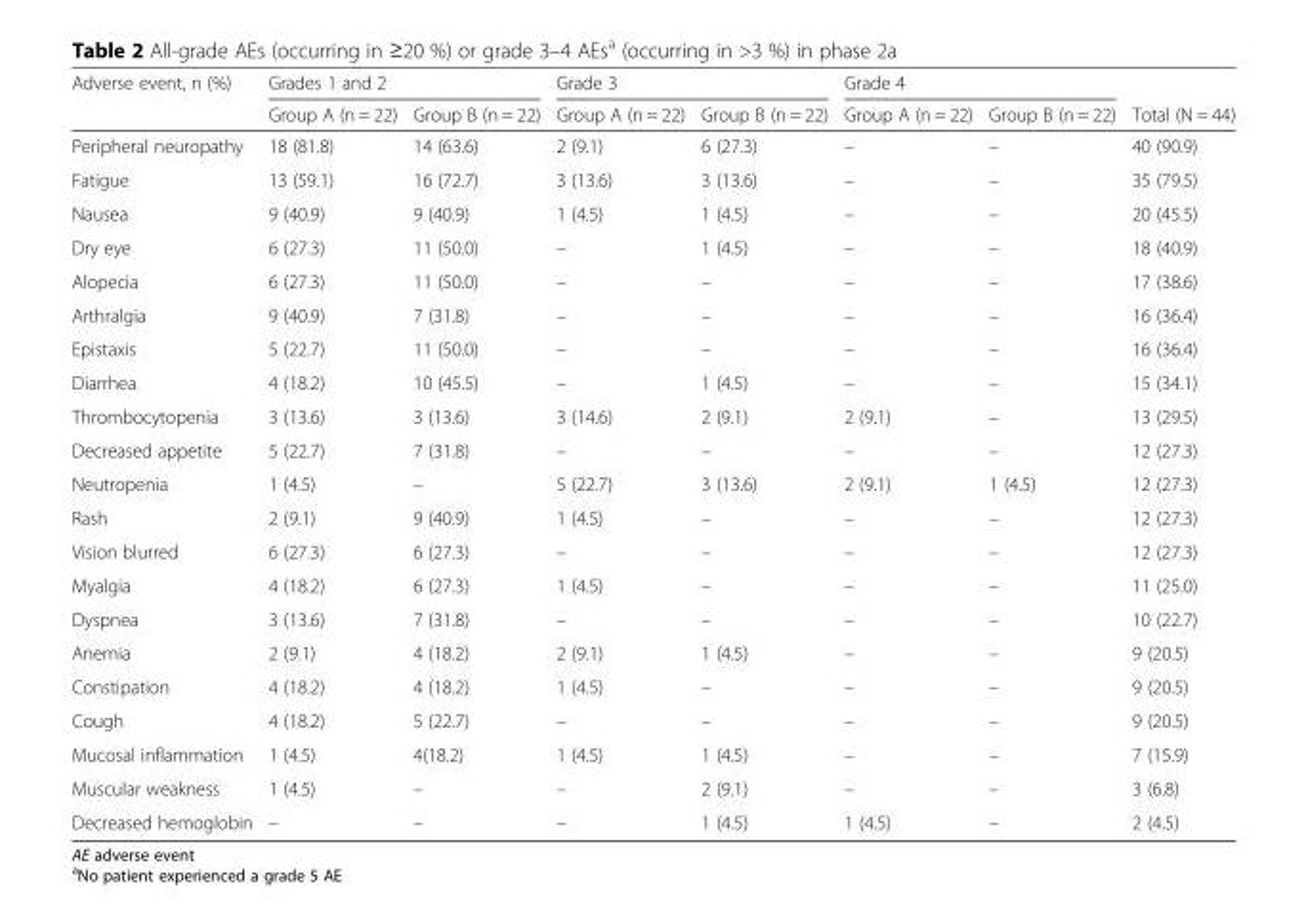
<table><thead><tr><td rowspan="2">Adverse event, n (%)</td><td colspan="2">Grades 1 and 2</td><td colspan="2">Grade 3</td><td colspan="2">Grade 4</td><td rowspan="2">Total (N = 44)</td></tr><tr><td>Group A (n = 22)</td><td>Group B (n = 22)</td><td>Group A (n = 22)</td><td>Group B (n = 22)</td><td>Group A (n = 22)</td><td>Group B (n = 22)</td></tr></thead><tbody><tr><td>Peripheral neuropathy</td><td>18 (81.8)</td><td>14 (63.6)</td><td>2 (9.1)</td><td>6 (27.3)</td><td>–</td><td>–</td><td>40 (90.9)</td></tr><tr><td>Fatigue</td><td>13 (59.1)</td><td>16 (72.7)</td><td>3 (13.6)</td><td>3 (13.6)</td><td>–</td><td>–</td><td>35 (79.5)</td></tr><tr><td>Nausea</td><td>9 (40.9)</td><td>9 (40.9)</td><td>1 (4.5)</td><td>1 (4.5)</td><td>–</td><td>–</td><td>20 (45.5)</td></tr><tr><td>Dry eye</td><td>6 (27.3)</td><td>11 (50.0)</td><td>–</td><td>1 (4.5)</td><td>–</td><td>–</td><td>18 (40.9)</td></tr><tr><td>Alopecia</td><td>6 (27.3)</td><td>11 (50.0)</td><td>–</td><td>–</td><td>–</td><td>–</td><td>17 (38.6)</td></tr><tr><td>Arthralgia</td><td>9 (40.9)</td><td>7 (31.8)</td><td>–</td><td>–</td><td>–</td><td>–</td><td>16 (36.4)</td></tr><tr><td>Epistaxis</td><td>5 (22.7)</td><td>11 (50.0)</td><td>–</td><td>–</td><td>–</td><td>–</td><td>16 (36.4)</td></tr><tr><td>Diarrhea</td><td>4 (18.2)</td><td>10 (45.5)</td><td>–</td><td>1 (4.5)</td><td>–</td><td>–</td><td>15 (34.1)</td></tr><tr><td>Thrombocytopenia</td><td>3 (13.6)</td><td>3 (13.6)</td><td>3 (14.6)</td><td>2 (9.1)</td><td>2 (9.1)</td><td>–</td><td>13 (29.5)</td></tr><tr><td>Decreased appetite</td><td>5 (22.7)</td><td>7 (31.8)</td><td>–</td><td>–</td><td>–</td><td>–</td><td>12 (27.3)</td></tr><tr><td>Neutropenia</td><td>1 (4.5)</td><td>–</td><td>5 (22.7)</td><td>3 (13.6)</td><td>2 (9.1)</td><td>1 (4.5)</td><td>12 (27.3)</td></tr><tr><td>Rash</td><td>2 (9.1)</td><td>9 (40.9)</td><td>1 (4.5)</td><td>–</td><td>–</td><td>–</td><td>12 (27.3)</td></tr><tr><td>Vision blurred</td><td>6 (27.3)</td><td>6 (27.3)</td><td>–</td><td>–</td><td>–</td><td>–</td><td>12 (27.3)</td></tr><tr><td>Myalgia</td><td>4 (18.2)</td><td>6 (27.3)</td><td>1 (4.5)</td><td>–</td><td>–</td><td>–</td><td>11 (25.0)</td></tr><tr><td>Dyspnea</td><td>3 (13.6)</td><td>7 (31.8)</td><td>–</td><td>–</td><td>–</td><td>–</td><td>10 (22.7)</td></tr><tr><td>Anemia</td><td>2 (9.1)</td><td>4 (18.2)</td><td>2 (9.1)</td><td>1 (4.5)</td><td>–</td><td>–</td><td>9 (20.5)</td></tr><tr><td>Constipation</td><td>4 (18.2)</td><td>4 (18.2)</td><td>1 (4.5)</td><td>–</td><td>–</td><td>–</td><td>9 (20.5)</td></tr><tr><td>Cough</td><td>4 (18.2)</td><td>5 (22.7)</td><td>–</td><td>–</td><td>–</td><td>–</td><td>9 (20.5)</td></tr><tr><td>Mucosal inflammation</td><td>1 (4.5)</td><td>4(18.2)</td><td>1 (4.5)</td><td>1 (4.5)</td><td>–</td><td>–</td><td>7 (15.9)</td></tr><tr><td>Muscular weakness</td><td>1 (4.5)</td><td>–</td><td>–</td><td>2 (9.1)</td><td>–</td><td>–</td><td>3 (6.8)</td></tr><tr><td>Decreased hemoglobin</td><td>–</td><td>–</td><td>–</td><td>1 (4.5)</td><td>1 (4.5)</td><td>–</td><td>2 (4.5)</td></tr></tbody></table>